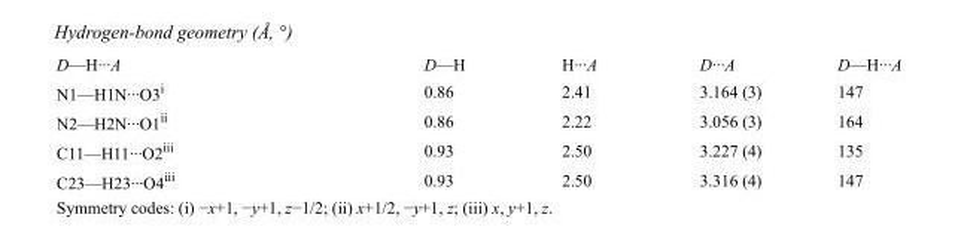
<table><tbody><tr><td>D—H···A</td><td>D—H</td><td>H···A</td><td>D···A</td><td>D—H···A</td></tr><tr><td>N1—H1N···O3<sup>i</sup></td><td>0.86</td><td>2.41</td><td>3.164 (3)</td><td>147</td></tr><tr><td>N2—H2N···O1<sup>ii</sup></td><td>0.86</td><td>2.22</td><td>3.056 (3)</td><td>164</td></tr><tr><td>C11—H11···O2<sup>iii</sup></td><td>0.93</td><td>2.50</td><td>3.227 (4)</td><td>135</td></tr><tr><td>C23—H23···O4<sup>iii</sup></td><td>0.93</td><td>2.50</td><td>3.316 (4)</td><td>147</td></tr></tbody></table>